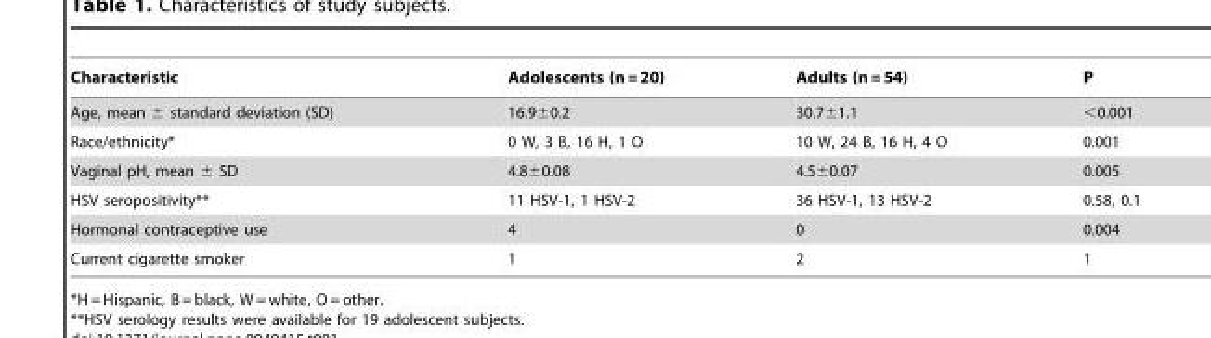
<table><thead><tr><td>Characteristic</td><td>Adolescents (n = 20)</td><td>Adults (n = 54)</td><td>P</td></tr></thead><tbody><tr><td>Age, mean ± standard deviation (SD)</td><td>16.9±0.2</td><td>30.7±1.1</td><td>&lt;0.001</td></tr><tr><td>Race/ethnicity*</td><td>0 W, 3 B, 16 H, 1 O</td><td>10 W, 24 B, 16 H, 4 O</td><td>0.001</td></tr><tr><td>Vaginal pH, mean ± SD</td><td>4.8±0.08</td><td>4.5±0.07</td><td>0.005</td></tr><tr><td>HSV seropositivity**</td><td>11 HSV-1, 1 HSV-2</td><td>36 HSV-1, 13 HSV-2</td><td>0.58, 0.1</td></tr><tr><td>Hormonal contraceptive use</td><td>4</td><td>0</td><td>0.004</td></tr><tr><td>Current cigarette smoker</td><td>1</td><td>2</td><td>1</td></tr></tbody></table>